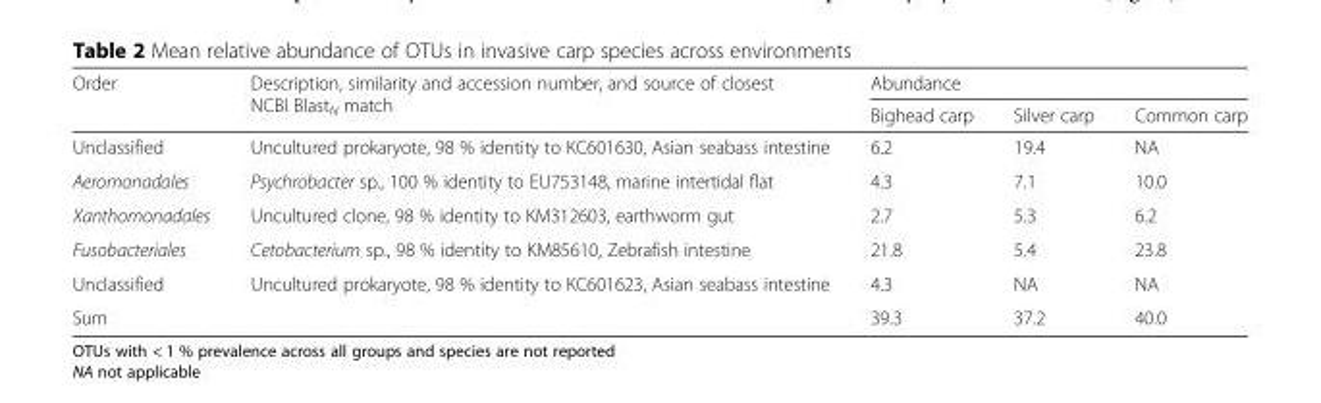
<table><thead><tr><td rowspan="2">Order</td><td rowspan="2">Description, similarity and accession number, and source of closest NCBI Blast<sub>N</sub> match</td><td colspan="3">Abundance</td></tr><tr><td>Bighead carp</td><td>Silver carp</td><td>Common carp</td></tr></thead><tbody><tr><td>Unclassified</td><td>Uncultured prokaryote, 98 % identity to KC601630, Asian seabass intestine</td><td>6.2</td><td>19.4</td><td>NA</td></tr><tr><td>Aeromonadales</td><td>Psychrobacter sp., 100 % identity to EU753148, marine intertidal flat</td><td>4.3</td><td>7.1</td><td>10.0</td></tr><tr><td>Xanthomonadales</td><td>Uncultured clone, 98 % identity to KM312603, earthworm gut</td><td>2.7</td><td>5.3</td><td>6.2</td></tr><tr><td>Fusobacteriales</td><td>Cetobacterium sp., 98 % identity to KM85610, Zebrafish intestine</td><td>21.8</td><td>5.4</td><td>23.8</td></tr><tr><td>Unclassified</td><td>Uncultured prokaryote, 98 % identity to KC601623, Asian seabass intestine</td><td>4.3</td><td>NA</td><td>NA</td></tr><tr><td colspan="2">Sum</td><td>39.3</td><td>37.2</td><td>40.0</td></tr></tbody></table>